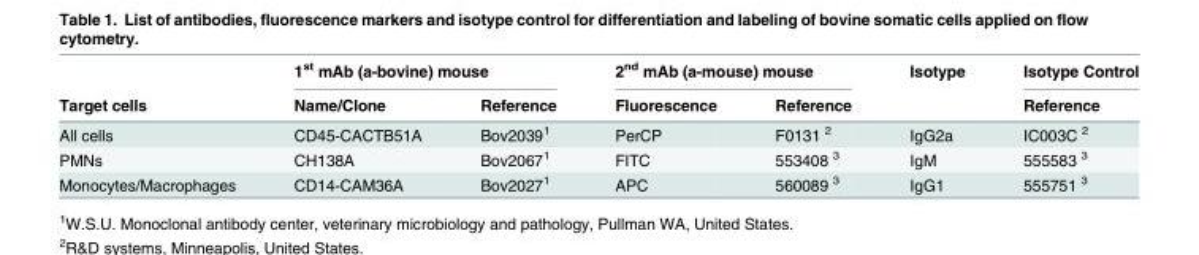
<table><thead><tr><td rowspan="2">Target cells</td><td colspan="2">1<sup>st</sup> mAb (a-bovine) mouse</td><td colspan="2">2<sup>nd</sup> mAb (a-mouse) mouse</td><td rowspan="2">Isotype</td><td rowspan="2">Isotype Control Reference</td></tr><tr><td>Name/Clone</td><td>Reference</td><td>Fluorescence</td><td>Reference</td></tr></thead><tbody><tr><td>All cells</td><td>CD45-CACTB51A</td><td>Bov2039<sup>1</sup></td><td>PerCP</td><td>F0131 <sup>2</sup></td><td>IgG2a</td><td>IC003C <sup>2</sup></td></tr><tr><td>PMNs</td><td>CH138A</td><td>Bov2067<sup>1</sup></td><td>FITC</td><td>553408 <sup>3</sup></td><td>IgM</td><td>555583 <sup>3</sup></td></tr><tr><td>Monocytes/Macrophages</td><td>CD14-CAM36A</td><td>Bov2027<sup>1</sup></td><td>APC</td><td>560089 <sup>3</sup></td><td>IgG1</td><td>555751 <sup>3</sup></td></tr></tbody></table>